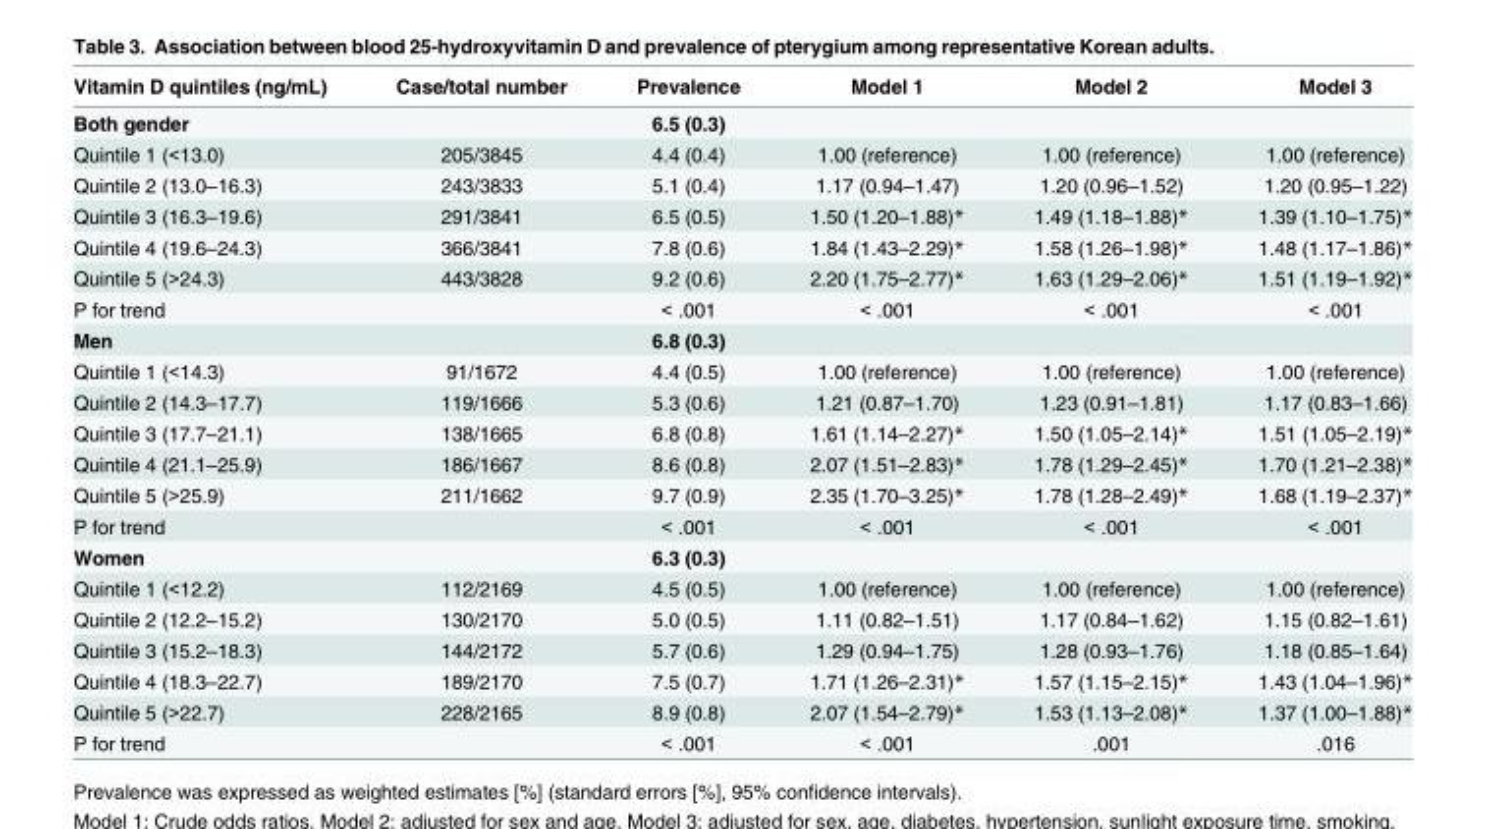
<table><thead><tr><td>Vitamin D quintiles (ng/mL)</td><td>Case/total number</td><td>Prevalence</td><td>Model 1</td><td>Model 2</td><td>Model 3</td></tr></thead><tbody><tr><td>Both gender</td><td></td><td>6.5 (0.3)</td><td></td><td></td><td></td></tr><tr><td>Quintile 1 (&lt;13.0)</td><td>205/3845</td><td>4.4 (0.4)</td><td>1.00 (reference)</td><td>1.00 (reference)</td><td>1.00 (reference)</td></tr><tr><td>Quintile 2 (13.0–16.3)</td><td>243/3833</td><td>5.1 (0.4)</td><td>1.17 (0.94–1.47)</td><td>1.20 (0.96–1.52)</td><td>1.20 (0.95–1.22)</td></tr><tr><td>Quintile 3 (16.3–19.6)</td><td>291/3841</td><td>6.5 (0.5)</td><td>1.50 (1.20–1.88)*</td><td>1.49 (1.18–1.88)*</td><td>1.39 (1.10–1.75)*</td></tr><tr><td>Quintile 4 (19.6–24.3)</td><td>366/3841</td><td>7.8 (0.6)</td><td>1.84 (1.43–2.29)*</td><td>1.58 (1.26–1.98)*</td><td>1.48 (1.17–1.86)*</td></tr><tr><td>Quintile 5 (&gt;24.3)</td><td>443/3828</td><td>9.2 (0.6)</td><td>2.20 (1.75–2.77)*</td><td>1.63 (1.29–2.06)*</td><td>1.51 (1.19–1.92)*</td></tr><tr><td>P for trend</td><td></td><td>&lt; .001</td><td>&lt; .001</td><td>&lt; .001</td><td>&lt; .001</td></tr><tr><td>Men</td><td></td><td>6.8 (0.3)</td><td></td><td></td><td></td></tr><tr><td>Quintile 1 (&lt;14.3)</td><td>91/1672</td><td>4.4 (0.5)</td><td>1.00 (reference)</td><td>1.00 (reference)</td><td>1.00 (reference)</td></tr><tr><td>Quintile 2 (14.3–17.7)</td><td>119/1666</td><td>5.3 (0.6)</td><td>1.21 (0.87–1.70)</td><td>1.23 (0.91–1.81)</td><td>1.17 (0.83–1.66)</td></tr><tr><td>Quintile 3 (17.7–21.1)</td><td>138/1665</td><td>6.8 (0.8)</td><td>1.61 (1.14–2.27)*</td><td>1.50 (1.05–2.14)*</td><td>1.51 (1.05–2.19)*</td></tr><tr><td>Quintile 4 (21.1–25.9)</td><td>186/1667</td><td>8.6 (0.8)</td><td>2.07 (1.51–2.83)*</td><td>1.78 (1.29–2.45)*</td><td>1.70 (1.21–2.38)*</td></tr><tr><td>Quintile 5 (&gt;25.9)</td><td>211/1662</td><td>9.7 (0.9)</td><td>2.35 (1.70–3.25)*</td><td>1.78 (1.28–2.49)*</td><td>1.68 (1.19–2.37)*</td></tr><tr><td>P for trend</td><td></td><td>&lt; .001</td><td>&lt; .001</td><td>&lt; .001</td><td>&lt; .001</td></tr><tr><td>Women</td><td></td><td>6.3 (0.3)</td><td></td><td></td><td></td></tr><tr><td>Quintile 1 (&lt;12.2)</td><td>112/2169</td><td>4.5 (0.5)</td><td>1.00 (reference)</td><td>1.00 (reference)</td><td>1.00 (reference)</td></tr><tr><td>Quintile 2 (12.2–15.2)</td><td>130/2170</td><td>5.0 (0.5)</td><td>1.11 (0.82–1.51)</td><td>1.17 (0.84–1.62)</td><td>1.15 (0.82–1.61)</td></tr><tr><td>Quintile 3 (15.2–18.3)</td><td>144/2172</td><td>5.7 (0.6)</td><td>1.29 (0.94–1.75)</td><td>1.28 (0.93–1.76)</td><td>1.18 (0.85–1.64)</td></tr><tr><td>Quintile 4 (18.3–22.7)</td><td>189/2170</td><td>7.5 (0.7)</td><td>1.71 (1.26–2.31)*</td><td>1.57 (1.15–2.15)*</td><td>1.43 (1.04–1.96)*</td></tr><tr><td>Quintile 5 (&gt;22.7)</td><td>228/2165</td><td>8.9 (0.8)</td><td>2.07 (1.54–2.79)*</td><td>1.53 (1.13–2.08)*</td><td>1.37 (1.00–1.88)*</td></tr><tr><td>P for trend</td><td></td><td>&lt; .001</td><td>&lt; .001</td><td>.001</td><td>.016</td></tr></tbody></table>